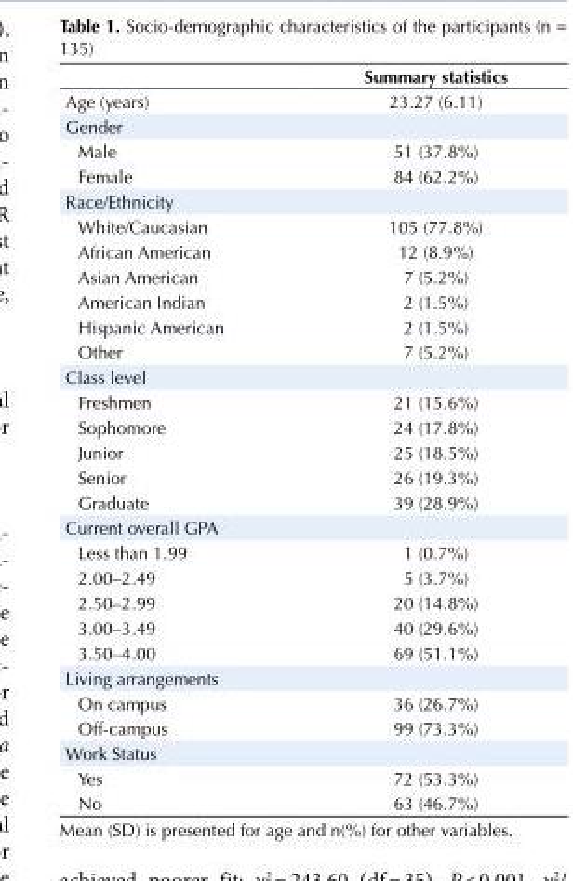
<table><thead><tr><td></td><td>Summary statistics</td></tr></thead><tbody><tr><td>Age (years)</td><td>23.27 (6.11)</td></tr><tr><td colspan="2">Gender</td></tr><tr><td>Male</td><td>51 (37.8%)</td></tr><tr><td>Female</td><td>84 (62.2%)</td></tr><tr><td colspan="2">Race/Ethnicity</td></tr><tr><td>White/Caucasian</td><td>105 (77.8%)</td></tr><tr><td>African American</td><td>12 (8.9%)</td></tr><tr><td>Asian American</td><td>7 (5.2%)</td></tr><tr><td>American Indian</td><td>2 (1.5%)</td></tr><tr><td>Hispanic American</td><td>2 (1.5%)</td></tr><tr><td>Other</td><td>7 (5.2%)</td></tr><tr><td colspan="2">Class level</td></tr><tr><td>Freshmen</td><td>21 (15.6%)</td></tr><tr><td>Sophomore</td><td>24 (17.8%)</td></tr><tr><td>Junior</td><td>25 (18.5%)</td></tr><tr><td>Senior</td><td>26 (19.3%)</td></tr><tr><td>Graduate</td><td>39 (28.9%)</td></tr><tr><td colspan="2">Current overall GPA</td></tr><tr><td>Less than 1.99</td><td>1 (0.7%)</td></tr><tr><td>2.00–2.49</td><td>5 (3.7%)</td></tr><tr><td>2.50–2.99</td><td>20 (14.8%)</td></tr><tr><td>3.00–3.49</td><td>40 (29.6%)</td></tr><tr><td>3.50–4.00</td><td>69 (51.1%)</td></tr><tr><td colspan="2">Living arrangements</td></tr><tr><td>On campus</td><td>36 (26.7%)</td></tr><tr><td>Off-campus</td><td>99 (73.3%)</td></tr><tr><td colspan="2">Work Status</td></tr><tr><td>Yes</td><td>72 (53.3%)</td></tr><tr><td>No</td><td>63 (46.7%)</td></tr></tbody></table>